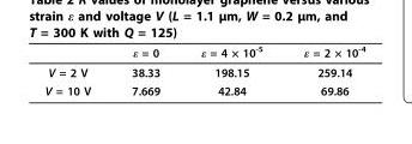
<table><thead><tr><td></td><td>ε = 0</td><td>ε = 4 × 10<sup>-5</sup></td><td>ε = 2 × 10<sup>-4</sup></td></tr></thead><tbody><tr><td>V = 2 V</td><td>38.33</td><td>198.15</td><td>259.14</td></tr><tr><td>V = 10 V</td><td>7.669</td><td>42.84</td><td>69.86</td></tr></tbody></table>